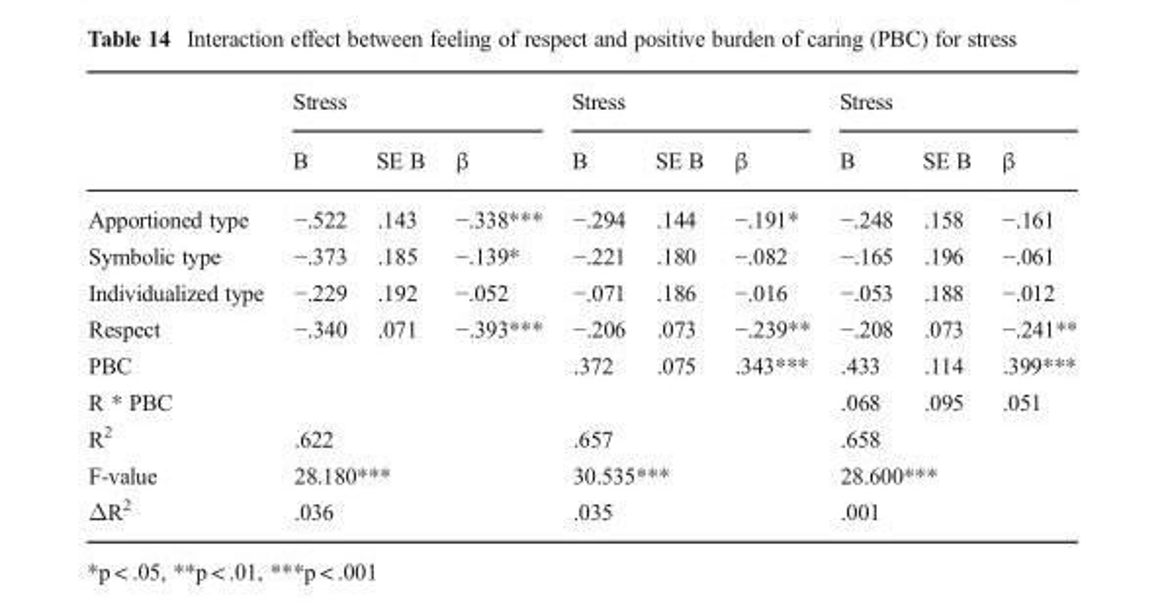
<table><thead><tr><td rowspan="2"></td><td colspan="3">Stress</td><td colspan="3">Stress</td><td colspan="3">Stress</td></tr><tr><td>B</td><td>SE B</td><td>β</td><td>B</td><td>SE B</td><td>β</td><td>B</td><td>SE B</td><td>β</td></tr></thead><tbody><tr><td>Apportioned type</td><td>−.522</td><td>.143</td><td>−.338***</td><td>−.294</td><td>.144</td><td>−.191*</td><td>−.248</td><td>.158</td><td>−.161</td></tr><tr><td>Symbolic type</td><td>−.373</td><td>.185</td><td>−.139*</td><td>−.221</td><td>.180</td><td>−.082</td><td>−.165</td><td>.196</td><td>−.061</td></tr><tr><td>Individualized type</td><td>−.229</td><td>.192</td><td>−.052</td><td>−.071</td><td>.186</td><td>−.016</td><td>−.053</td><td>.188</td><td>−.012</td></tr><tr><td>Respect</td><td>−.340</td><td>.071</td><td>−.393***</td><td>−.206</td><td>.073</td><td>−.239**</td><td>−.208</td><td>.073</td><td>−.241**</td></tr><tr><td>PBC</td><td></td><td></td><td></td><td>.372</td><td>.075</td><td>.343***</td><td>.433</td><td>.114</td><td>.399***</td></tr><tr><td>R * PBC</td><td></td><td></td><td></td><td></td><td></td><td></td><td>.068</td><td>.095</td><td>.051</td></tr><tr><td>R<sup>2</sup></td><td colspan="3">.622</td><td colspan="3">.657</td><td colspan="3">.658</td></tr><tr><td>F-value</td><td colspan="3">28.180***</td><td colspan="3">30.535***</td><td colspan="3">28.600***</td></tr><tr><td>ΔR<sup>2</sup></td><td colspan="3">.036</td><td colspan="3">.035</td><td colspan="3">.001</td></tr></tbody></table>